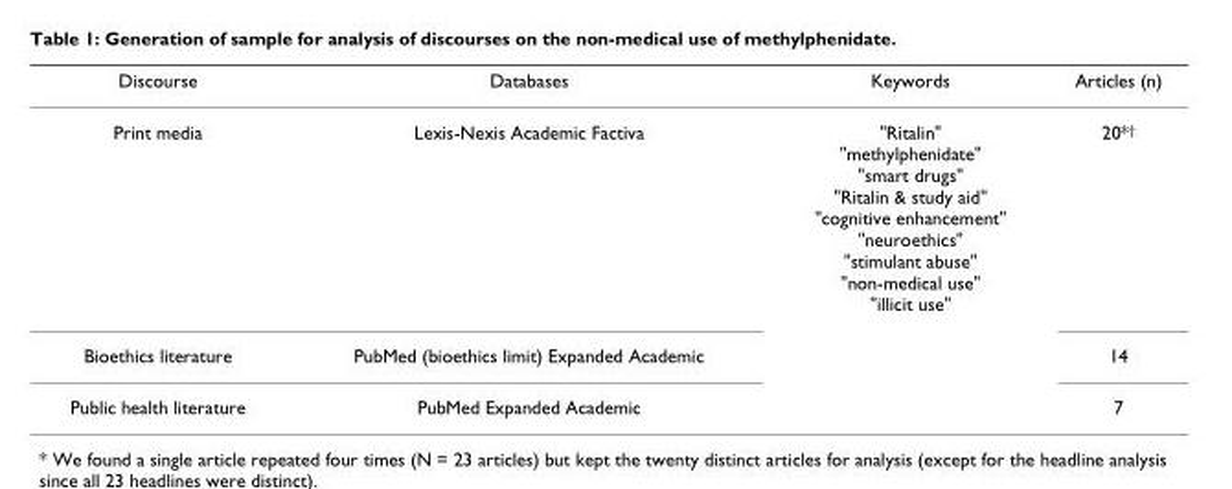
<table><thead><tr><td>Discourse</td><td>Databases</td><td>Keywords</td><td>Articles (n)</td></tr></thead><tbody><tr><td>Print media</td><td>Lexis-Nexis Academic Factiva</td><td>&quot;Ritalin&quot; &quot;methylphenidate&quot; &quot;smart drugs&quot; &quot;Ritalin &amp; study aid&quot; &quot;cognitive enhancement&quot; &quot;neuroethics&quot; &quot;stimulant abuse&quot; &quot;non-medical use&quot; &quot;illicit use&quot;</td><td>20*<sup>†</sup></td></tr><tr><td>Bioethics literature</td><td>PubMed (bioethics limit) Expanded Academic</td><td></td><td>14</td></tr><tr><td>Public health literature</td><td>PubMed Expanded Academic</td><td></td><td>7</td></tr></tbody></table>